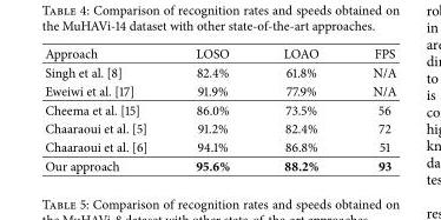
<table><thead><tr><td>Approach</td><td>LOSO</td><td>LOAO</td><td>FPS</td></tr></thead><tbody><tr><td>Singh et al. [8]</td><td>82.4%</td><td>61.8%</td><td>N/A</td></tr><tr><td>Eweiwi et al. [17]</td><td>91.9%</td><td>77.9%</td><td>N/A</td></tr><tr><td>Cheema et al. [15]</td><td>86.0%</td><td>73.5%</td><td>56</td></tr><tr><td>Chaaraoui et al. [5]</td><td>91.2%</td><td>82.4%</td><td>72</td></tr><tr><td>Chaaraoui et al. [6]</td><td>94.1%</td><td>86.8%</td><td>51</td></tr><tr><td>Our approach</td><td>95.6%</td><td>88.2%</td><td>93</td></tr></tbody></table>